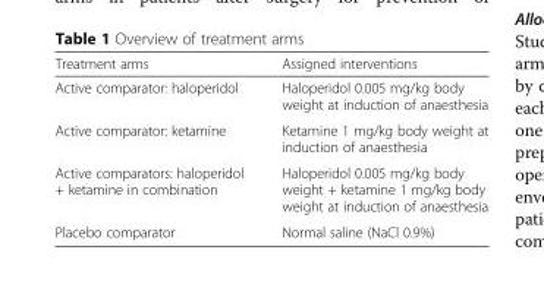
<table><thead><tr><td>Treatment arms</td><td>Assigned interventions</td></tr></thead><tbody><tr><td>Active comparator: haloperidol</td><td>Haloperidol 0.005 mg/kg body weight at induction of anaesthesia</td></tr><tr><td>Active comparator: ketamine</td><td>Ketamine 1 mg/kg body weight at induction of anaesthesia</td></tr><tr><td>Active comparators: haloperidol + ketamine in combination</td><td>Haloperidol 0.005 mg/kg body weight + ketamine 1 mg/kg body weight at induction of anaesthesia</td></tr><tr><td>Placebo comparator</td><td>Normal saline (NaCl 0.9%)</td></tr></tbody></table>